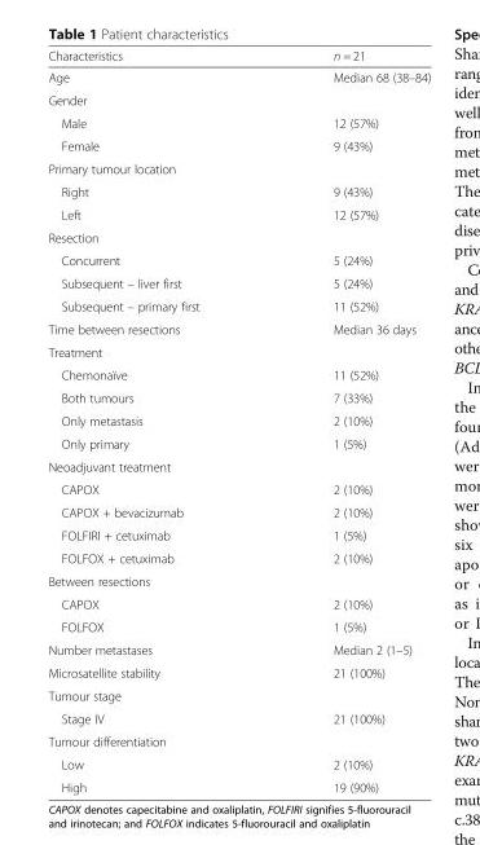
<table><thead><tr><td>Characteristics</td><td>n = 21</td></tr></thead><tbody><tr><td>Age</td><td>Median 68 (38–84)</td></tr><tr><td colspan="2">Gender</td></tr><tr><td>Male</td><td>12 (57%)</td></tr><tr><td>Female</td><td>9 (43%)</td></tr><tr><td colspan="2">Primary tumour location</td></tr><tr><td>Right</td><td>9 (43%)</td></tr><tr><td>Left</td><td>12 (57%)</td></tr><tr><td colspan="2">Resection</td></tr><tr><td>Concurrent</td><td>5 (24%)</td></tr><tr><td>Subsequent – liver first</td><td>5 (24%)</td></tr><tr><td>Subsequent – primary first</td><td>11 (52%)</td></tr><tr><td>Time between resections</td><td>Median 36 days</td></tr><tr><td colspan="2">Treatment</td></tr><tr><td>Chemonaïve</td><td>11 (52%)</td></tr><tr><td>Both tumours</td><td>7 (33%)</td></tr><tr><td>Only metastasis</td><td>2 (10%)</td></tr><tr><td>Only primary</td><td>1 (5%)</td></tr><tr><td colspan="2">Neoadjuvant treatment</td></tr><tr><td>CAPOX</td><td>2 (10%)</td></tr><tr><td>CAPOX + bevacizumab</td><td>2 (10%)</td></tr><tr><td>FOLFIRI + cetuximab</td><td>1 (5%)</td></tr><tr><td>FOLFOX + cetuximab</td><td>2 (10%)</td></tr><tr><td colspan="2">Between resections</td></tr><tr><td>CAPOX</td><td>2 (10%)</td></tr><tr><td>FOLFOX</td><td>1 (5%)</td></tr><tr><td>Number metastases</td><td>Median 2 (1–5)</td></tr><tr><td>Microsatellite stability</td><td>21 (100%)</td></tr><tr><td colspan="2">Tumour stage</td></tr><tr><td>Stage IV</td><td>21 (100%)</td></tr><tr><td colspan="2">Tumour differentiation</td></tr><tr><td>Low</td><td>2 (10%)</td></tr><tr><td>High</td><td>19 (90%)</td></tr></tbody></table>